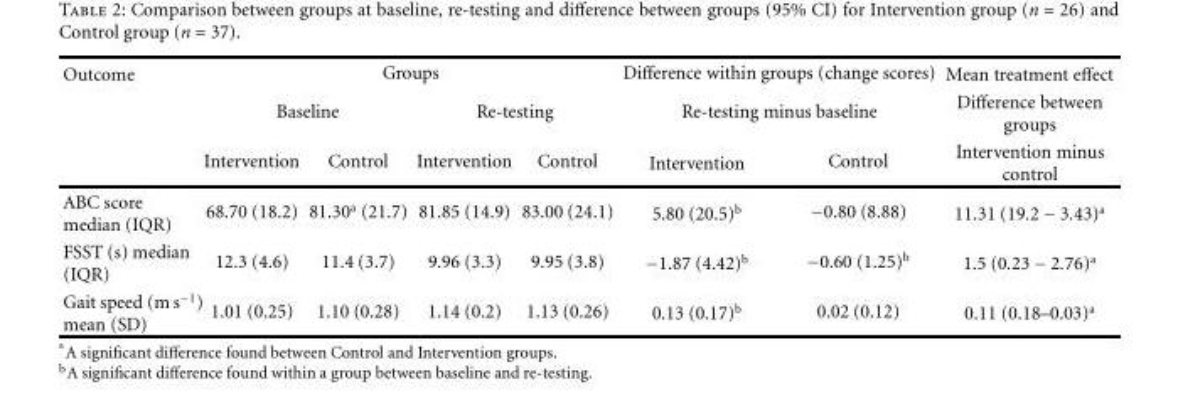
<table><thead><tr><td rowspan="3">Outcome</td><td colspan="4">Groups</td><td rowspan="2" colspan="2">Difference within groups (change scores) Re-testing minus baseline</td><td rowspan="3">Mean treatment effect Difference between groups Intervention minus control</td></tr><tr><td colspan="2">Baseline</td><td colspan="2">Re-testing</td></tr><tr><td>Intervention</td><td>Control</td><td>Intervention</td><td>Control</td><td>Intervention</td><td>Control</td></tr></thead><tbody><tr><td>ABC score median (IQR)</td><td>68.70 (18.2)</td><td>81.30<sup>a</sup> (21.7)</td><td>81.85 (14.9)</td><td>83.00 (24.1)</td><td>5.80 (20.5)<sup>b</sup></td><td>−0.80 (8.88)</td><td>11.31 (19.2 − 3.43)<sup>a</sup></td></tr><tr><td>FSST (s) median (IQR)</td><td>12.3 (4.6)</td><td>11.4 (3.7)</td><td>9.96 (3.3)</td><td>9.95 (3.8)</td><td>−1.87 (4.42)<sup>b</sup></td><td>−0.60 (1.25)<sup>b</sup></td><td>1.5 (0.23 − 2.76)<sup>a</sup></td></tr><tr><td>Gait speed (m s<sup>−1</sup>) mean (SD)</td><td>1.01 (0.25)</td><td>1.10 (0.28)</td><td>1.14 (0.2)</td><td>1.13 (0.26)</td><td>0.13 (0.17)<sup>b</sup></td><td>0.02 (0.12)</td><td>0.11 (0.18–0.03)<sup>a</sup></td></tr></tbody></table>